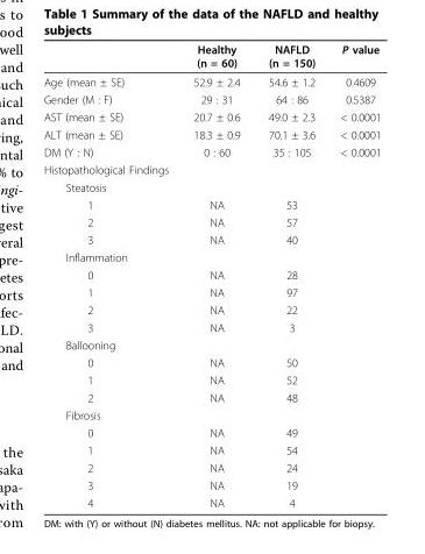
<table><thead><tr><td></td><td>Healthy (n = 60)</td><td>NAFLD (n = 150)</td><td>P value</td></tr></thead><tbody><tr><td>Age (mean ± SE)</td><td>52.9 ± 2.4</td><td>54.6 ± 1.2</td><td>0.4609</td></tr><tr><td>Gender (M : F)</td><td>29 : 31</td><td>64 : 86</td><td>0.5387</td></tr><tr><td>AST (mean ± SE)</td><td>20.7 ± 0.6</td><td>49.0 ± 2.3</td><td>&lt; 0.0001</td></tr><tr><td>ALT (mean ± SE)</td><td>18.3 ± 0.9</td><td>70.1 ± 3.6</td><td>&lt; 0.0001</td></tr><tr><td>DM (Y : N)</td><td>0 : 60</td><td>35 : 105</td><td>&lt; 0.0001</td></tr><tr><td colspan="4">Histopathological Findings</td></tr><tr><td colspan="4">Steatosis</td></tr><tr><td>1</td><td>NA</td><td>53</td><td></td></tr><tr><td>2</td><td>NA</td><td>57</td><td></td></tr><tr><td>3</td><td>NA</td><td>40</td><td></td></tr><tr><td colspan="4">Inflammation</td></tr><tr><td>0</td><td>NA</td><td>28</td><td></td></tr><tr><td>1</td><td>NA</td><td>97</td><td></td></tr><tr><td>2</td><td>NA</td><td>22</td><td></td></tr><tr><td>3</td><td>NA</td><td>3</td><td></td></tr><tr><td colspan="4">Ballooning</td></tr><tr><td>0</td><td>NA</td><td>50</td><td></td></tr><tr><td>1</td><td>NA</td><td>52</td><td></td></tr><tr><td>2</td><td>NA</td><td>48</td><td></td></tr><tr><td colspan="4">Fibrosis</td></tr><tr><td>0</td><td>NA</td><td>49</td><td></td></tr><tr><td>1</td><td>NA</td><td>54</td><td></td></tr><tr><td>2</td><td>NA</td><td>24</td><td></td></tr><tr><td>3</td><td>NA</td><td>19</td><td></td></tr><tr><td>4</td><td>NA</td><td>4</td><td></td></tr></tbody></table>